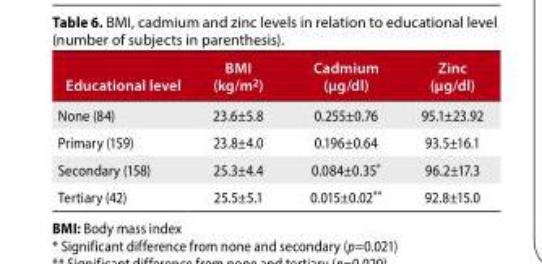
<table><thead><tr><td>Educational level</td><td>BMI (kg/m<sup>2</sup>)</td><td>Cadmium (µg/dl)</td><td>Zinc (µg/dl)</td></tr></thead><tbody><tr><td>None (84)</td><td>23.6±5.8</td><td>0.255±0.76</td><td>95.1±23.92</td></tr><tr><td>Primary (159)</td><td>23.8±4.0</td><td>0.196±0.64</td><td>93.5±16.1</td></tr><tr><td>Secondary (158)</td><td>25.3±4.4</td><td>0.084±0.35*</td><td>96.2±17.3</td></tr><tr><td>Tertiary (42)</td><td>25.5±5.1</td><td>0.015±0.02**</td><td>92.8±15.0</td></tr></tbody></table>